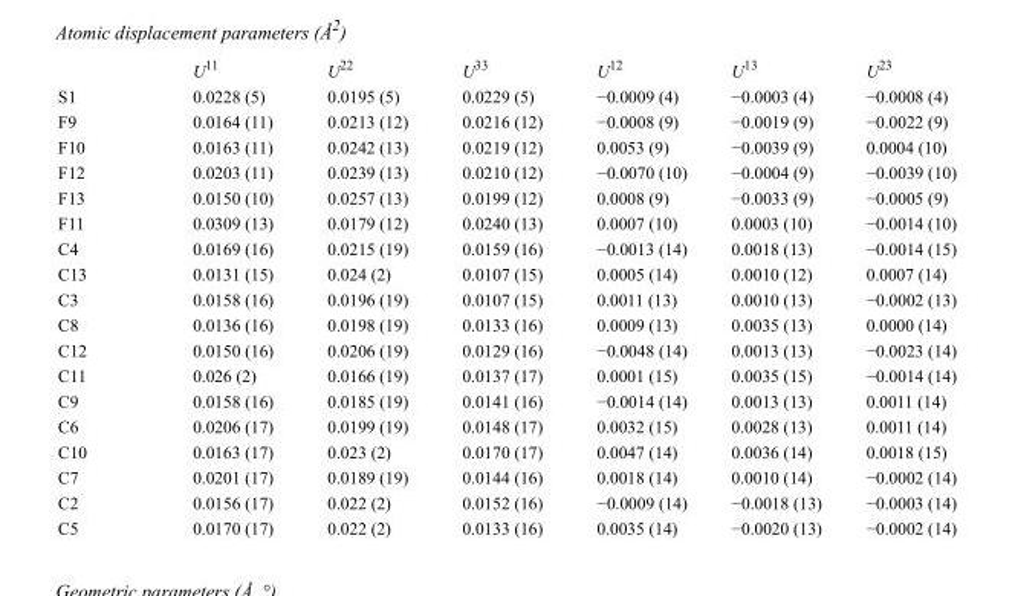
<table><thead><tr><td></td><td>U<sup>11</sup></td><td>U<sup>22</sup></td><td>U<sup>33</sup></td><td>U<sup>12</sup></td><td>U<sup>13</sup></td><td>U<sup>23</sup></td></tr></thead><tbody><tr><td>S1</td><td>0.0228 (5)</td><td>0.0195 (5)</td><td>0.0229 (5)</td><td>−0.0009 (4)</td><td>−0.0003 (4)</td><td>−0.0008 (4)</td></tr><tr><td>F9</td><td>0.0164 (11)</td><td>0.0213 (12)</td><td>0.0216 (12)</td><td>−0.0008 (9)</td><td>−0.0019 (9)</td><td>−0.0022 (9)</td></tr><tr><td>F10</td><td>0.0163 (11)</td><td>0.0242 (13)</td><td>0.0219 (12)</td><td>0.0053 (9)</td><td>−0.0039 (9)</td><td>0.0004 (10)</td></tr><tr><td>F12</td><td>0.0203 (11)</td><td>0.0239 (13)</td><td>0.0210 (12)</td><td>−0.0070 (10)</td><td>−0.0004 (9)</td><td>−0.0039 (10)</td></tr><tr><td>F13</td><td>0.0150 (10)</td><td>0.0257 (13)</td><td>0.0199 (12)</td><td>0.0008 (9)</td><td>−0.0033 (9)</td><td>−0.0005 (9)</td></tr><tr><td>F11</td><td>0.0309 (13)</td><td>0.0179 (12)</td><td>0.0240 (13)</td><td>0.0007 (10)</td><td>0.0003 (10)</td><td>−0.0014 (10)</td></tr><tr><td>C4</td><td>0.0169 (16)</td><td>0.0215 (19)</td><td>0.0159 (16)</td><td>−0.0013 (14)</td><td>0.0018 (13)</td><td>−0.0014 (15)</td></tr><tr><td>C13</td><td>0.0131 (15)</td><td>0.024 (2)</td><td>0.0107 (15)</td><td>0.0005 (14)</td><td>0.0010 (12)</td><td>0.0007 (14)</td></tr><tr><td>C3</td><td>0.0158 (16)</td><td>0.0196 (19)</td><td>0.0107 (15)</td><td>0.0011 (13)</td><td>0.0010 (13)</td><td>−0.0002 (13)</td></tr><tr><td>C8</td><td>0.0136 (16)</td><td>0.0198 (19)</td><td>0.0133 (16)</td><td>0.0009 (13)</td><td>0.0035 (13)</td><td>0.0000 (14)</td></tr><tr><td>C12</td><td>0.0150 (16)</td><td>0.0206 (19)</td><td>0.0129 (16)</td><td>−0.0048 (14)</td><td>0.0013 (13)</td><td>−0.0023 (14)</td></tr><tr><td>C11</td><td>0.026 (2)</td><td>0.0166 (19)</td><td>0.0137 (17)</td><td>0.0001 (15)</td><td>0.0035 (15)</td><td>−0.0014 (14)</td></tr><tr><td>C9</td><td>0.0158 (16)</td><td>0.0185 (19)</td><td>0.0141 (16)</td><td>−0.0014 (14)</td><td>0.0013 (13)</td><td>0.0011 (14)</td></tr><tr><td>C6</td><td>0.0206 (17)</td><td>0.0199 (19)</td><td>0.0148 (17)</td><td>0.0032 (15)</td><td>0.0028 (13)</td><td>0.0011 (14)</td></tr><tr><td>C10</td><td>0.0163 (17)</td><td>0.023 (2)</td><td>0.0170 (17)</td><td>0.0047 (14)</td><td>0.0036 (14)</td><td>0.0018 (15)</td></tr><tr><td>C7</td><td>0.0201 (17)</td><td>0.0189 (19)</td><td>0.0144 (16)</td><td>0.0018 (14)</td><td>0.0010 (14)</td><td>−0.0002 (14)</td></tr><tr><td>C2</td><td>0.0156 (17)</td><td>0.022 (2)</td><td>0.0152 (16)</td><td>−0.0009 (14)</td><td>−0.0018 (13)</td><td>−0.0003 (14)</td></tr><tr><td>C5</td><td>0.0170 (17)</td><td>0.022 (2)</td><td>0.0133 (16)</td><td>0.0035 (14)</td><td>−0.0020 (13)</td><td>−0.0002 (14)</td></tr></tbody></table>